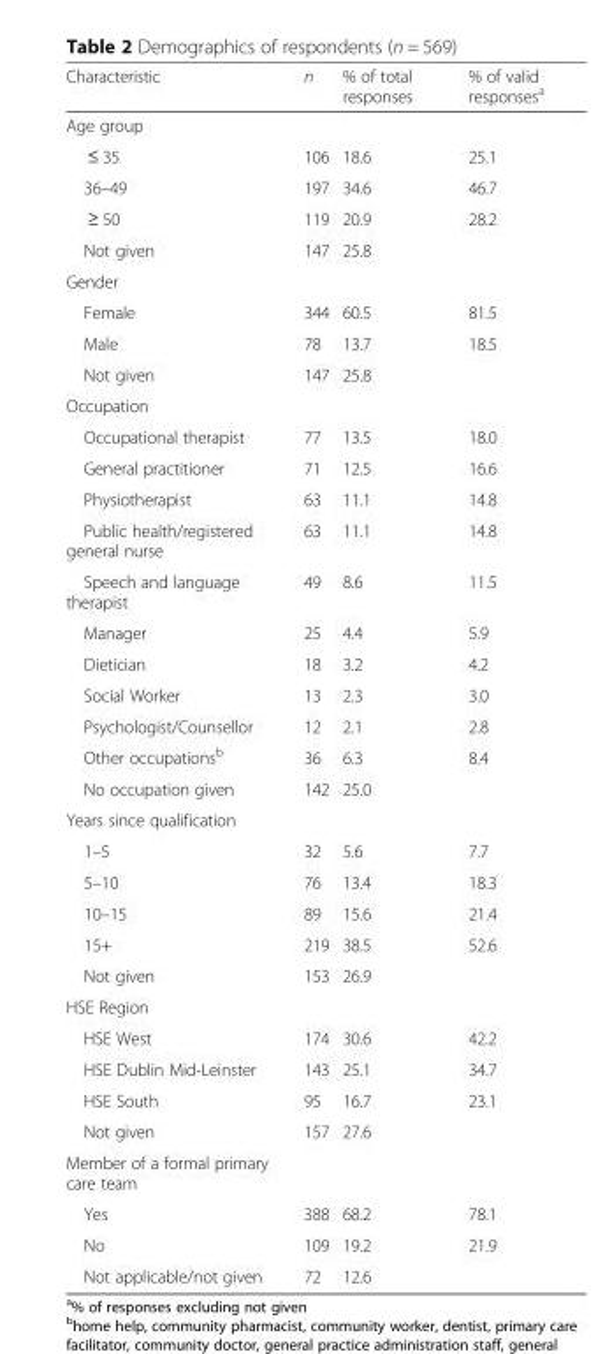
<table><thead><tr><td>Characteristic</td><td>n</td><td>% of total responses</td><td>% of valid responses<sup>a</sup></td></tr></thead><tbody><tr><td colspan="4">Age group</td></tr><tr><td>≤ 35</td><td>106</td><td>18.6</td><td>25.1</td></tr><tr><td>36–49</td><td>197</td><td>34.6</td><td>46.7</td></tr><tr><td>≥ 50</td><td>119</td><td>20.9</td><td>28.2</td></tr><tr><td>Not given</td><td>147</td><td>25.8</td><td></td></tr><tr><td colspan="4">Gender</td></tr><tr><td>Female</td><td>344</td><td>60.5</td><td>81.5</td></tr><tr><td>Male</td><td>78</td><td>13.7</td><td>18.5</td></tr><tr><td>Not given</td><td>147</td><td>25.8</td><td></td></tr><tr><td colspan="4">Occupation</td></tr><tr><td>Occupational therapist</td><td>77</td><td>13.5</td><td>18.0</td></tr><tr><td>General practitioner</td><td>71</td><td>12.5</td><td>16.6</td></tr><tr><td>Physiotherapist</td><td>63</td><td>11.1</td><td>14.8</td></tr><tr><td>Public health/registered general nurse</td><td>63</td><td>11.1</td><td>14.8</td></tr><tr><td>Speech and language therapist</td><td>49</td><td>8.6</td><td>11.5</td></tr><tr><td>Manager</td><td>25</td><td>4.4</td><td>5.9</td></tr><tr><td>Dietician</td><td>18</td><td>3.2</td><td>4.2</td></tr><tr><td>Social Worker</td><td>13</td><td>2.3</td><td>3.0</td></tr><tr><td>Psychologist/Counsellor</td><td>12</td><td>2.1</td><td>2.8</td></tr><tr><td>Other occupations<sup>b</sup></td><td>36</td><td>6.3</td><td>8.4</td></tr><tr><td>No occupation given</td><td>142</td><td>25.0</td><td></td></tr><tr><td colspan="4">Years since qualification</td></tr><tr><td>1–5</td><td>32</td><td>5.6</td><td>7.7</td></tr><tr><td>5–10</td><td>76</td><td>13.4</td><td>18.3</td></tr><tr><td>10–15</td><td>89</td><td>15.6</td><td>21.4</td></tr><tr><td>15+</td><td>219</td><td>38.5</td><td>52.6</td></tr><tr><td>Not given</td><td>153</td><td>26.9</td><td></td></tr><tr><td colspan="4">HSE Region</td></tr><tr><td>HSE West</td><td>174</td><td>30.6</td><td>42.2</td></tr><tr><td>HSE Dublin Mid-Leinster</td><td>143</td><td>25.1</td><td>34.7</td></tr><tr><td>HSE South</td><td>95</td><td>16.7</td><td>23.1</td></tr><tr><td>Not given</td><td>157</td><td>27.6</td><td></td></tr><tr><td colspan="4">Member of a formal primary care team</td></tr><tr><td>Yes</td><td>388</td><td>68.2</td><td>78.1</td></tr><tr><td>No</td><td>109</td><td>19.2</td><td>21.9</td></tr><tr><td>Not applicable/not given</td><td>72</td><td>12.6</td><td></td></tr></tbody></table>